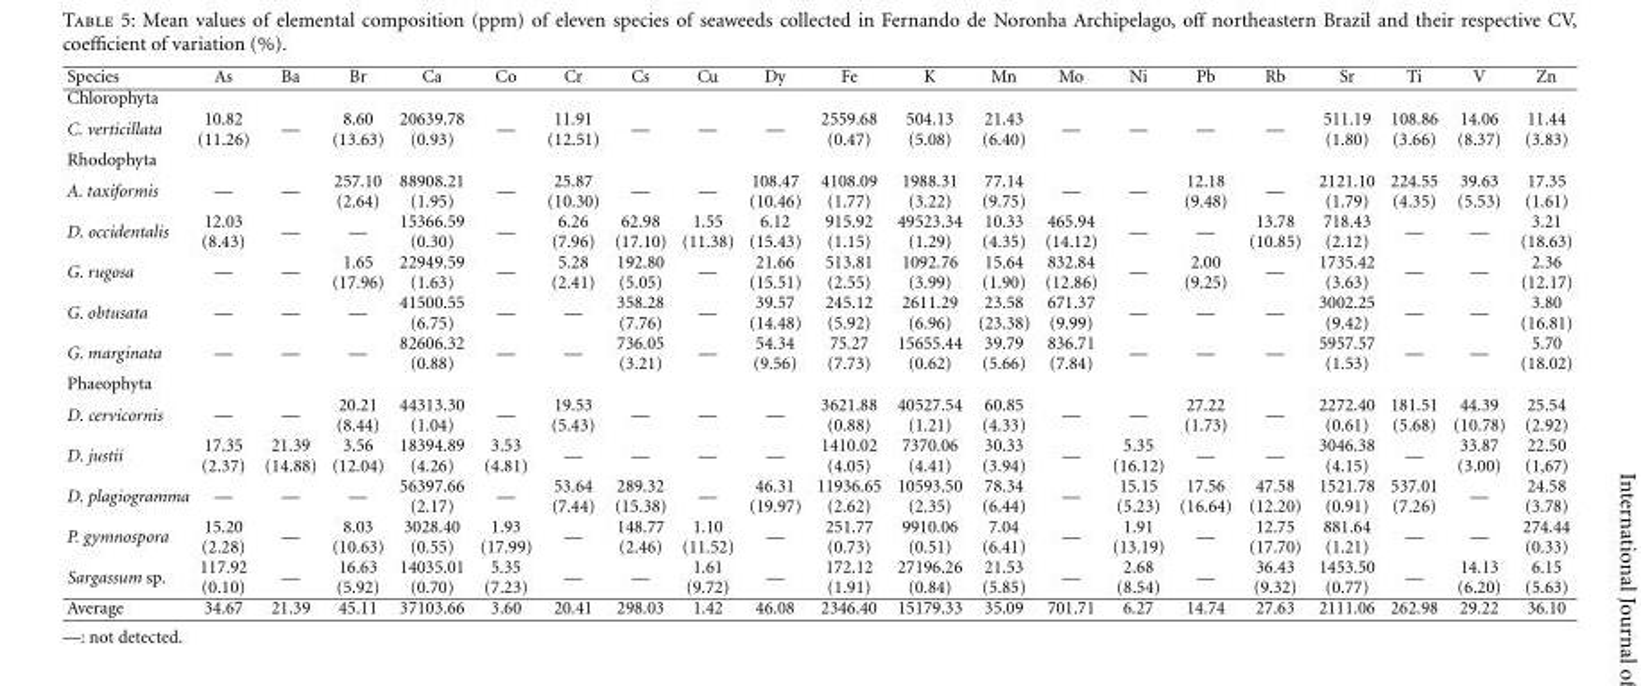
<table><thead><tr><td>Species</td><td>As</td><td>Ba</td><td>Br</td><td>Ca</td><td>Co</td><td>Cr</td><td>Cs</td><td>Cu</td><td>Dy</td><td>Fe</td><td>K</td><td>Mn</td><td>Mo</td><td>Ni</td><td>Pb</td><td>Rb</td><td>Sr</td><td>Ti</td><td>V</td><td>Zn</td></tr></thead><tbody><tr><td colspan="21">Chlorophyta</td></tr><tr><td>C. verticillata</td><td>10.82 (11.26)</td><td>—</td><td>8.60 (13.63)</td><td>20639.78 (0.93)</td><td>—</td><td>11.91 (12.51)</td><td>—</td><td>—</td><td>—</td><td>2559.68 (0.47)</td><td>504.13 (5.08)</td><td>21.43 (6.40)</td><td>—</td><td>—</td><td>—</td><td>—</td><td>511.19 (1.80)</td><td>108.86 (3.66)</td><td>14.06 (8.37)</td><td>11.44 (3.83)</td></tr><tr><td colspan="21">Rhodophyta</td></tr><tr><td>A. taxiformis</td><td>—</td><td>—</td><td>257.10 (2.64)</td><td>88908.21 (1.95)</td><td>—</td><td>25.87 (10.30)</td><td>—</td><td>—</td><td>108.47 (10.46)</td><td>4108.09 (1.77)</td><td>1988.31 (3.22)</td><td>77.14 (9.75)</td><td>—</td><td>—</td><td>12.18 (9.48)</td><td>—</td><td>2121.10 (1.79)</td><td>224.55 (4.35)</td><td>39.63 (5.53)</td><td>17.35 (1.61)</td></tr><tr><td>D. occidentalis</td><td>12.03 (8.43)</td><td>—</td><td>—</td><td>15366.59 (0.30)</td><td>—</td><td>6.26 (7.96)</td><td>62.98 (17.10)</td><td>1.55 (11.38)</td><td>6.12 (15.43)</td><td>915.92 (1.15)</td><td>49523.34 (1.29)</td><td>10.33 (4.35)</td><td>465.94 (14.12)</td><td>—</td><td>—</td><td>13.78 (10.85)</td><td>718.43 (2.12)</td><td>—</td><td>—</td><td>3.21 (18.63)</td></tr><tr><td>G. rugosa</td><td>—</td><td>—</td><td>1.65 (17.96)</td><td>22949.59 (1.63)</td><td>—</td><td>5.28 (2.41)</td><td>192.80 (5.05)</td><td>—</td><td>21.66 (15.51)</td><td>513.81 (2.55)</td><td>1092.76 (3.99)</td><td>15.64 (1.90)</td><td>832.84 (12.86)</td><td>—</td><td>2.00 (9.25)</td><td>—</td><td>1735.42 (3.63)</td><td>—</td><td>—</td><td>2.36 (12.17)</td></tr><tr><td>G. obtusata</td><td>—</td><td>—</td><td>—</td><td>41500.55 (6.75)</td><td>—</td><td>—</td><td>358.28 (7.76)</td><td>—</td><td>39.57 (14.48)</td><td>245.12 (5.92)</td><td>2611.29 (6.96)</td><td>23.58 (23.38)</td><td>671.37 (9.99)</td><td>—</td><td>—</td><td>—</td><td>3002.25 (9.42)</td><td>—</td><td>—</td><td>3.80 (16.81)</td></tr><tr><td>G. marginata</td><td>—</td><td>—</td><td>—</td><td>82606.32 (0.88)</td><td>—</td><td>—</td><td>736.05 (3.21)</td><td>—</td><td>54.34 (9.56)</td><td>75.27 (7.73)</td><td>15655.44 (0.62)</td><td>39.79 (5.66)</td><td>836.71 (7.84)</td><td>—</td><td>—</td><td>—</td><td>5957.57 (1.53)</td><td>—</td><td>—</td><td>5.70 (18.02)</td></tr><tr><td colspan="21">Phaeophyta</td></tr><tr><td>D. cervicornis</td><td>—</td><td>—</td><td>20.21 (8.44)</td><td>44313.30 (1.04)</td><td>—</td><td>19.53 (5.43)</td><td>—</td><td>—</td><td>—</td><td>3621.88 (0.88)</td><td>40527.54 (1.21)</td><td>60.85 (4.33)</td><td>—</td><td>—</td><td>27.22 (1.73)</td><td>—</td><td>2272.40 (0.61)</td><td>181.51 (5.68)</td><td>44.39 (10.78)</td><td>25.54 (2.92)</td></tr><tr><td>D. justii</td><td>17.35 (2.37)</td><td>21.39 (14.88)</td><td>3.56 (12.04)</td><td>18394.89 (4.26)</td><td>3.53 (4.81)</td><td>—</td><td>—</td><td>—</td><td>—</td><td>1410.02 (4.05)</td><td>7370.06 (4.41)</td><td>30.33 (3.94)</td><td>—</td><td>5.35 (16.12)</td><td>—</td><td>—</td><td>3046.38 (4.15)</td><td>—</td><td>33.87 (3.00)</td><td>22.50 (1,67)</td></tr><tr><td>D. plagiogramma</td><td>—</td><td>—</td><td>—</td><td>56397.66 (2.17)</td><td>—</td><td>53.64 (7.44)</td><td>289.32 (15.38)</td><td>—</td><td>46.31 (19.97)</td><td>11936.65 (2.62)</td><td>10593.50 (2.35)</td><td>78.34 (6.44)</td><td>—</td><td>15.15 (5.23)</td><td>17.56 (16.64)</td><td>47.58 (12.20)</td><td>1521.78 (0.91)</td><td>537.01 (7.26)</td><td>—</td><td>24.58 (3.78)</td></tr><tr><td>P. gymnospora</td><td>15.20 (2.28)</td><td>—</td><td>8.03 (10.63)</td><td>3028.40 (0.55)</td><td>1.93 (17.99)</td><td>—</td><td>148.77 (2.46)</td><td>1.10 (11.52)</td><td>—</td><td>251.77 (0.73)</td><td>9910.06 (0.51)</td><td>7.04 (6.41)</td><td>—</td><td>1.91 (13.19)</td><td>—</td><td>12.75 (17.70)</td><td>881.64 (1.21)</td><td>—</td><td>—</td><td>274.44 (0.33)</td></tr><tr><td>Sargassum sp.</td><td>117.92 (0.10)</td><td>—</td><td>16.63 (5.92)</td><td>14035.01 (0.70)</td><td>5.35 (7.23)</td><td>—</td><td>—</td><td>1.61 (9.72)</td><td>—</td><td>172.12 (1.91)</td><td>27196.26 (0.84)</td><td>21.53 (5.85)</td><td>—</td><td>2.68 (8.54)</td><td>—</td><td>36.43 (9.32)</td><td>1453.50 (0.77)</td><td>—</td><td>14.13 (6.20)</td><td>6.15 (5.63)</td></tr><tr><td>Average</td><td>34.67</td><td>21.39</td><td>45.11</td><td>37103.66</td><td>3.60</td><td>20.41</td><td>298.03</td><td>1.42</td><td>46.08</td><td>2346.40</td><td>15179.33</td><td>35.09</td><td>701.71</td><td>6.27</td><td>14.74</td><td>27.63</td><td>2111.06</td><td>262.98</td><td>29.22</td><td>36.10</td></tr></tbody></table>